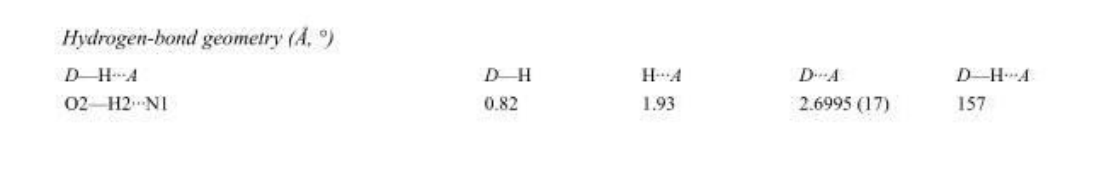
<table><tbody><tr><td>D—H···A</td><td>D—H</td><td>H···A</td><td>D···A</td><td>D—H···A</td></tr><tr><td>O2—H2···N1</td><td>0.82</td><td>1.93</td><td>2.6995 (17)</td><td>157</td></tr></tbody></table>